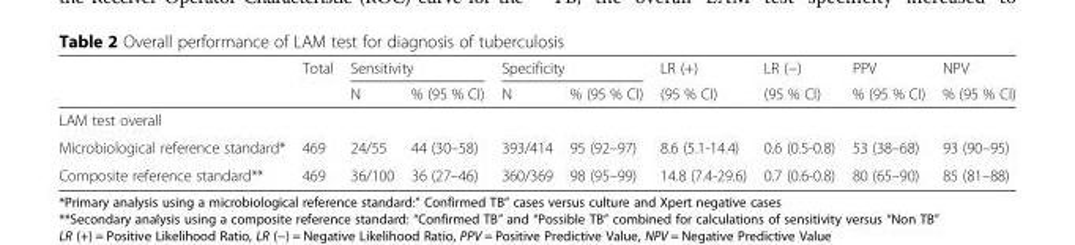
<table><thead><tr><td rowspan="2"></td><td rowspan="2">Total</td><td colspan="2">Sensitivity</td><td colspan="2">Specificity</td><td rowspan="2">LR (+) (95 % CI)</td><td rowspan="2">LR (−) (95 % CI)</td><td rowspan="2">PPV % (95 % CI)</td><td rowspan="2">NPV % (95 % CI)</td></tr><tr><td>N</td><td>% (95 % CI)</td><td>N</td><td>% (95 % CI)</td></tr></thead><tbody><tr><td colspan="10">LAM test overall</td></tr><tr><td>Microbiological reference standard*</td><td>469</td><td>24/55</td><td>44 (30–58)</td><td>393/414</td><td>95 (92–97)</td><td>8.6 (5.1-14.4)</td><td>0.6 (0.5-0.8)</td><td>53 (38–68)</td><td>93 (90–95)</td></tr><tr><td>Composite reference standard**</td><td>469</td><td>36/100</td><td>36 (27–46)</td><td>360/369</td><td>98 (95–99)</td><td>14.8 (7.4-29.6)</td><td>0.7 (0.6-0.8)</td><td>80 (65–90)</td><td>85 (81–88)</td></tr></tbody></table>